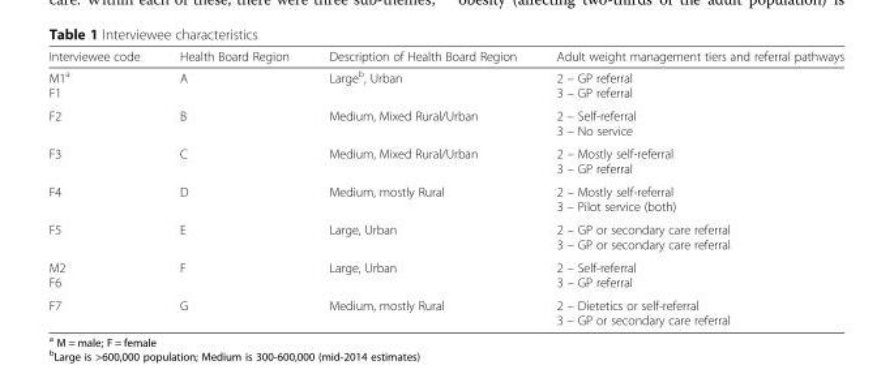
<table><thead><tr><td>Interviewee code</td><td>Health Board Region</td><td>Description of Health Board Region</td><td>Adult weight management tiers and referral pathways</td></tr></thead><tbody><tr><td>M1<sup>a</sup> F1</td><td>A</td><td>Large<sup>b</sup>, Urban</td><td>2 – GP referral 3 – GP referral</td></tr><tr><td>F2</td><td>B</td><td>Medium, Mixed Rural/Urban</td><td>2 – Self-referral 3 – No service</td></tr><tr><td>F3</td><td>C</td><td>Medium, Mixed Rural/Urban</td><td>2 – Mostly self-referral 3 – GP referral</td></tr><tr><td>F4</td><td>D</td><td>Medium, mostly Rural</td><td>2 – Mostly self-referral 3 – Pilot service (both)</td></tr><tr><td>F5</td><td>E</td><td>Large, Urban</td><td>2 – GP or secondary care referral 3 – GP or secondary care referral</td></tr><tr><td>M2 F6</td><td>F</td><td>Large, Urban</td><td>2 – Self-referral 3 – GP referral</td></tr><tr><td>F7</td><td>G</td><td>Medium, mostly Rural</td><td>2 – Dietetics or self-referral 3 – GP or secondary care referral</td></tr></tbody></table>